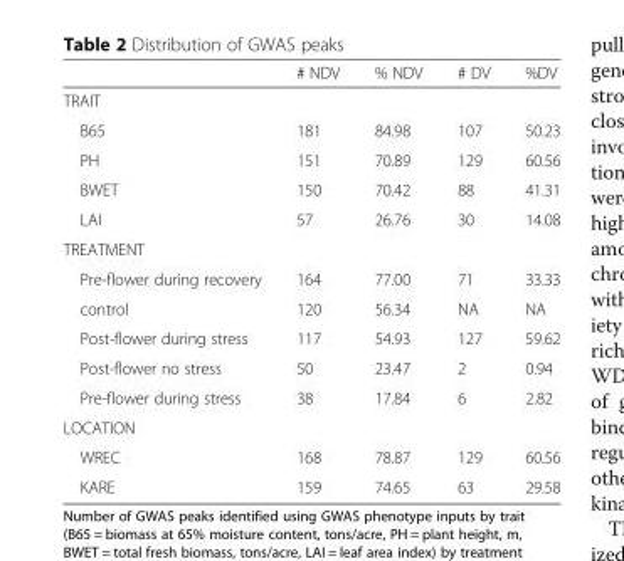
<table><thead><tr><td></td><td># NDV</td><td>% NDV</td><td># DV</td><td>%DV</td></tr></thead><tbody><tr><td colspan="5">TRAIT</td></tr><tr><td>B65</td><td>181</td><td>84.98</td><td>107</td><td>50.23</td></tr><tr><td>PH</td><td>151</td><td>70.89</td><td>129</td><td>60.56</td></tr><tr><td>BWET</td><td>150</td><td>70.42</td><td>88</td><td>41.31</td></tr><tr><td>LAI</td><td>57</td><td>26.76</td><td>30</td><td>14.08</td></tr><tr><td colspan="5">TREATMENT</td></tr><tr><td>Pre-flower during recovery</td><td>164</td><td>77.00</td><td>71</td><td>33.33</td></tr><tr><td>control</td><td>120</td><td>56.34</td><td>NA</td><td>NA</td></tr><tr><td>Post-flower during stress</td><td>117</td><td>54.93</td><td>127</td><td>59.62</td></tr><tr><td>Post-flower no stress</td><td>50</td><td>23.47</td><td>2</td><td>0.94</td></tr><tr><td>Pre-flower during stress</td><td>38</td><td>17.84</td><td>6</td><td>2.82</td></tr><tr><td colspan="5">LOCATION</td></tr><tr><td>WREC</td><td>168</td><td>78.87</td><td>129</td><td>60.56</td></tr><tr><td>KARE</td><td>159</td><td>74.65</td><td>63</td><td>29.58</td></tr></tbody></table>